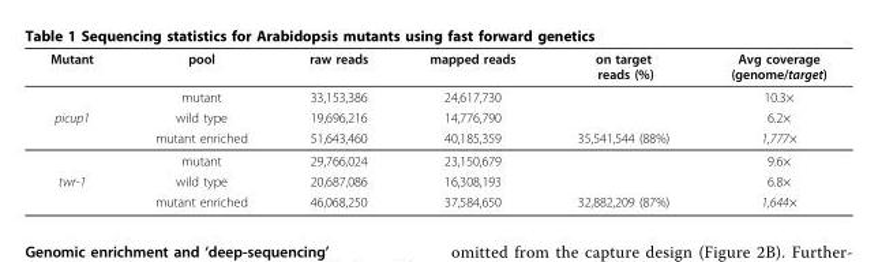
<table><thead><tr><td>Mutant</td><td>pool</td><td>raw reads</td><td>mapped reads</td><td>on target reads (%)</td><td>Avg coverage (genome/target)</td></tr></thead><tbody><tr><td></td><td>mutant</td><td>33,153,386</td><td>24,617,730</td><td></td><td>10.3×</td></tr><tr><td rowspan="3">picup1</td><td>wild type</td><td>19,696,216</td><td>14,776,790</td><td></td><td>6.2×</td></tr><tr><td>mutant enriched</td><td>51,643,460</td><td>40,185,359</td><td>35,541,544 (88%)</td><td>1,777×</td></tr><tr><td>mutant</td><td>29,766,024</td><td>23,150,679</td><td></td><td>9.6×</td></tr><tr><td rowspan="2">twr-1</td><td>wild type</td><td>20,687,086</td><td>16,308,193</td><td></td><td>6.8×</td></tr><tr><td>mutant enriched</td><td>46,068,250</td><td>37,584,650</td><td>32,882,209 (87%)</td><td>1,644×</td></tr></tbody></table>